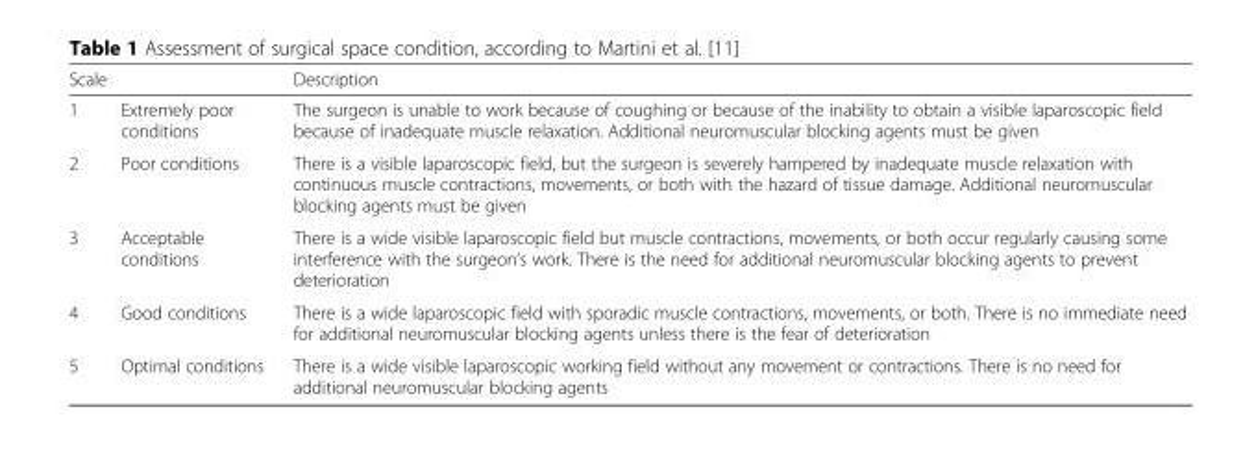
<table><thead><tr><td>Scale</td><td></td><td>Description</td></tr></thead><tbody><tr><td>1</td><td>Extremely poor conditions</td><td>The surgeon is unable to work because of coughing or because of the inability to obtain a visible laparoscopic field because of inadequate muscle relaxation. Additional neuromuscular blocking agents must be given</td></tr><tr><td>2</td><td>Poor conditions</td><td>There is a visible laparoscopic field, but the surgeon is severely hampered by inadequate muscle relaxation with continuous muscle contractions, movements, or both with the hazard of tissue damage. Additional neuromuscular blocking agents must be given</td></tr><tr><td>3</td><td>Acceptable conditions</td><td>There is a wide visible laparoscopic field but muscle contractions, movements, or both occur regularly causing some interference with the surgeon’s work. There is the need for additional neuromuscular blocking agents to prevent deterioration</td></tr><tr><td>4</td><td>Good conditions</td><td>There is a wide laparoscopic field with sporadic muscle contractions, movements, or both. There is no immediate need for additional neuromuscular blocking agents unless there is the fear of deterioration</td></tr><tr><td>5</td><td>Optimal conditions</td><td>There is a wide visible laparoscopic working field without any movement or contractions. There is no need for additional neuromuscular blocking agents</td></tr></tbody></table>